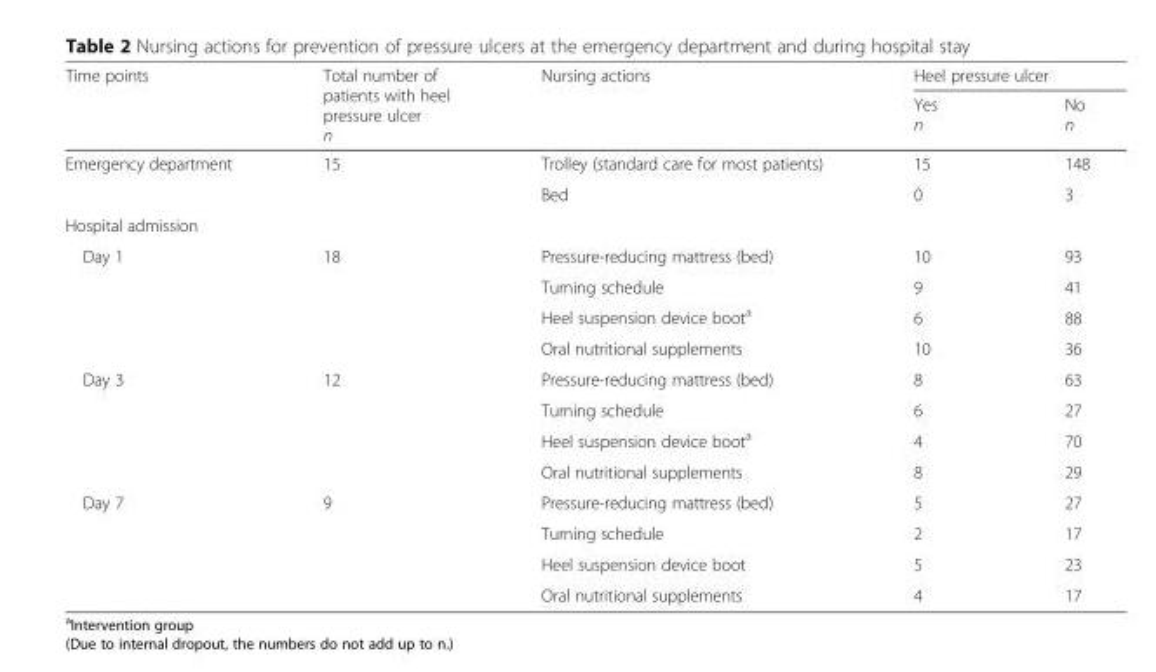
<table><thead><tr><td rowspan="2">Time points</td><td rowspan="2">Total number of patients with heel pressure ulcer n</td><td rowspan="2">Nursing actions</td><td colspan="2">Heel pressure ulcer</td></tr><tr><td>Yes n</td><td>No n</td></tr></thead><tbody><tr><td rowspan="2">Emergency department</td><td rowspan="2">15</td><td>Trolley (standard care for most patients)</td><td>15</td><td>148</td></tr><tr><td>Bed</td><td>0</td><td>3</td></tr><tr><td colspan="5">Hospital admission</td></tr><tr><td rowspan="4">Day 1</td><td rowspan="4">18</td><td>Pressure-reducing mattress (bed)</td><td>10</td><td>93</td></tr><tr><td>Turning schedule</td><td>9</td><td>41</td></tr><tr><td>Heel suspension device boot<sup>a</sup></td><td>6</td><td>88</td></tr><tr><td>Oral nutritional supplements</td><td>10</td><td>36</td></tr><tr><td rowspan="4">Day 3</td><td rowspan="4">12</td><td>Pressure-reducing mattress (bed)</td><td>8</td><td>63</td></tr><tr><td>Turning schedule</td><td>6</td><td>27</td></tr><tr><td>Heel suspension device boot<sup>a</sup></td><td>4</td><td>70</td></tr><tr><td>Oral nutritional supplements</td><td>8</td><td>29</td></tr><tr><td rowspan="4">Day 7</td><td rowspan="4">9</td><td>Pressure-reducing mattress (bed)</td><td>5</td><td>27</td></tr><tr><td>Turning schedule</td><td>2</td><td>17</td></tr><tr><td>Heel suspension device boot</td><td>5</td><td>23</td></tr><tr><td>Oral nutritional supplements</td><td>4</td><td>17</td></tr></tbody></table>